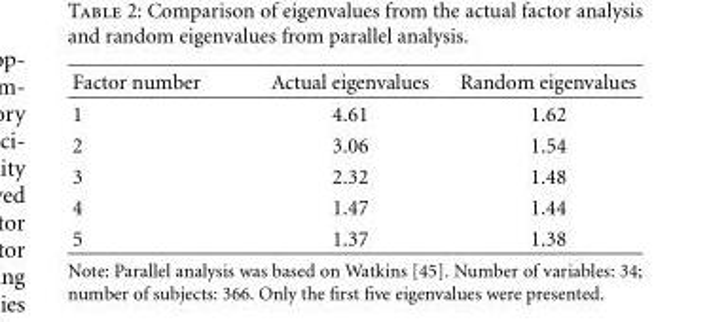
<table><thead><tr><td>Factor number</td><td>Actual eigenvalues</td><td>Random eigenvalues</td></tr></thead><tbody><tr><td>1</td><td>4.61</td><td>1.62</td></tr><tr><td>2</td><td>3.06</td><td>1.54</td></tr><tr><td>3</td><td>2.32</td><td>1.48</td></tr><tr><td>4</td><td>1.47</td><td>1.44</td></tr><tr><td>5</td><td>1.37</td><td>1.38</td></tr></tbody></table>